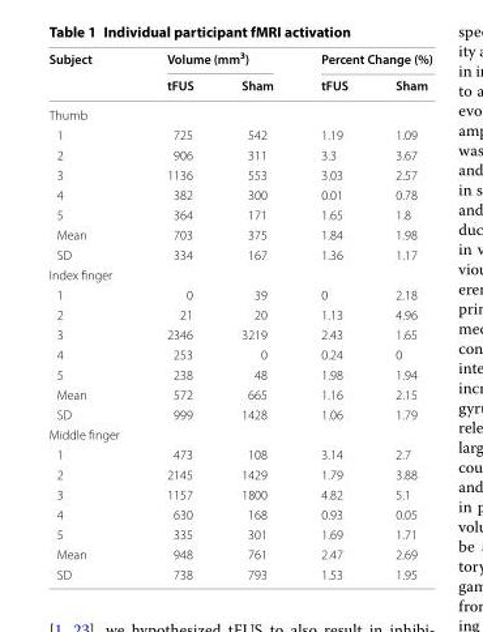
<table><thead><tr><td rowspan="2">Subject</td><td colspan="2">Volume (mm<sup>3</sup>)</td><td colspan="2">Percent Change (%)</td></tr><tr><td>tFUS</td><td>Sham</td><td>tFUS</td><td>Sham</td></tr></thead><tbody><tr><td colspan="5">Thumb</td></tr><tr><td>1</td><td>725</td><td>542</td><td>1.19</td><td>1.09</td></tr><tr><td>2</td><td>906</td><td>311</td><td>3.3</td><td>3.67</td></tr><tr><td>3</td><td>1136</td><td>553</td><td>3.03</td><td>2.57</td></tr><tr><td>4</td><td>382</td><td>300</td><td>0.01</td><td>0.78</td></tr><tr><td>5</td><td>364</td><td>171</td><td>1.65</td><td>1.8</td></tr><tr><td>Mean</td><td>703</td><td>375</td><td>1.84</td><td>1.98</td></tr><tr><td>SD</td><td>334</td><td>167</td><td>1.36</td><td>1.17</td></tr><tr><td colspan="5">Index finger</td></tr><tr><td>1</td><td>0</td><td>39</td><td>0</td><td>2.18</td></tr><tr><td>2</td><td>21</td><td>20</td><td>1.13</td><td>4.96</td></tr><tr><td>3</td><td>2346</td><td>3219</td><td>2.43</td><td>1.65</td></tr><tr><td>4</td><td>253</td><td>0</td><td>0.24</td><td>0</td></tr><tr><td>5</td><td>238</td><td>48</td><td>1.98</td><td>1.94</td></tr><tr><td>Mean</td><td>572</td><td>665</td><td>1.16</td><td>2.15</td></tr><tr><td>SD</td><td>999</td><td>1428</td><td>1.06</td><td>1.79</td></tr><tr><td colspan="5">Middle finger</td></tr><tr><td>1</td><td>473</td><td>108</td><td>3.14</td><td>2.7</td></tr><tr><td>2</td><td>2145</td><td>1429</td><td>1.79</td><td>3.88</td></tr><tr><td>3</td><td>1157</td><td>1800</td><td>4.82</td><td>5.1</td></tr><tr><td>4</td><td>630</td><td>168</td><td>0.93</td><td>0.05</td></tr><tr><td>5</td><td>335</td><td>301</td><td>1.69</td><td>1.71</td></tr><tr><td>Mean</td><td>948</td><td>761</td><td>2.47</td><td>2.69</td></tr><tr><td>SD</td><td>738</td><td>793</td><td>1.53</td><td>1.95</td></tr></tbody></table>